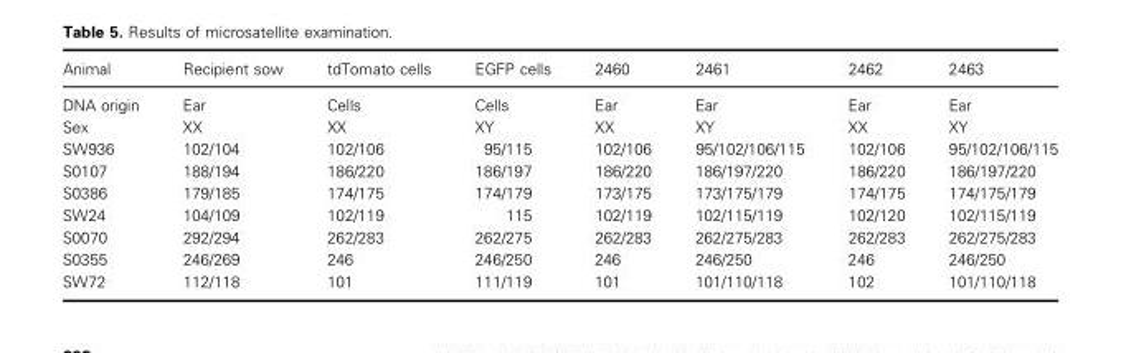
<table><thead><tr><td>Animal</td><td>Recipient sow</td><td>tdTomato cells</td><td>EGFP cells</td><td>2460</td><td>2461</td><td>2462</td><td>2463</td></tr></thead><tbody><tr><td>DNA origin</td><td>Ear</td><td>Cells</td><td>Cells</td><td>Ear</td><td>Ear</td><td>Ear</td><td>Ear</td></tr><tr><td>Sex</td><td>XX</td><td>XX</td><td>XY</td><td>XX</td><td>XY</td><td>XX</td><td>XY</td></tr><tr><td>SW936</td><td>102/104</td><td>102/106</td><td>95/115</td><td>102/106</td><td>95/102/106/115</td><td>102/106</td><td>95/102/106/115</td></tr><tr><td>S0107</td><td>188/194</td><td>186/220</td><td>186/197</td><td>186/220</td><td>186/197/220</td><td>186/220</td><td>186/197/220</td></tr><tr><td>S0386</td><td>179/185</td><td>174/175</td><td>174/179</td><td>173/175</td><td>173/175/179</td><td>174/175</td><td>174/175/179</td></tr><tr><td>SW24</td><td>104/109</td><td>102/119</td><td>115</td><td>102/119</td><td>102/115/119</td><td>102/120</td><td>102/115/119</td></tr><tr><td>S0070</td><td>292/294</td><td>262/283</td><td>262/275</td><td>262/283</td><td>262/275/283</td><td>262/283</td><td>262/275/283</td></tr><tr><td>S0355</td><td>246/269</td><td>246</td><td>246/250</td><td>246</td><td>246/250</td><td>246</td><td>246/250</td></tr><tr><td>SW72</td><td>112/118</td><td>101</td><td>111/119</td><td>101</td><td>101/110/118</td><td>102</td><td>101/110/118</td></tr></tbody></table>